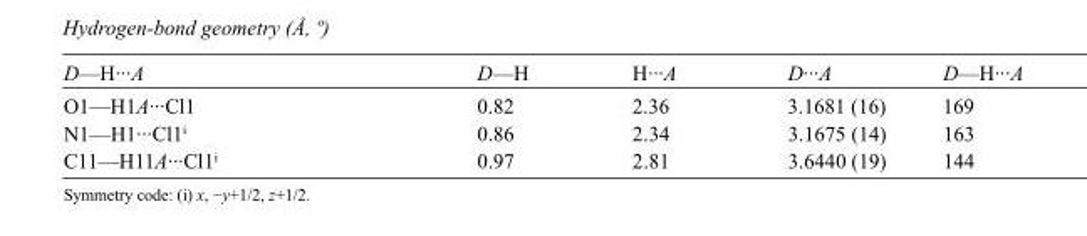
<table><tbody><tr><td>D—H···A</td><td>D—H</td><td>H···A</td><td>D···A</td><td>D—H···A</td></tr><tr><td>O1—H1A···Cl1</td><td>0.82</td><td>2.36</td><td>3.1681 (16)</td><td>169</td></tr><tr><td>N1—H1···Cl1<sup>i</sup></td><td>0.86</td><td>2.34</td><td>3.1675 (14)</td><td>163</td></tr><tr><td>C11—H11A···Cl1<sup>i</sup></td><td>0.97</td><td>2.81</td><td>3.6440 (19)</td><td>144</td></tr></tbody></table>